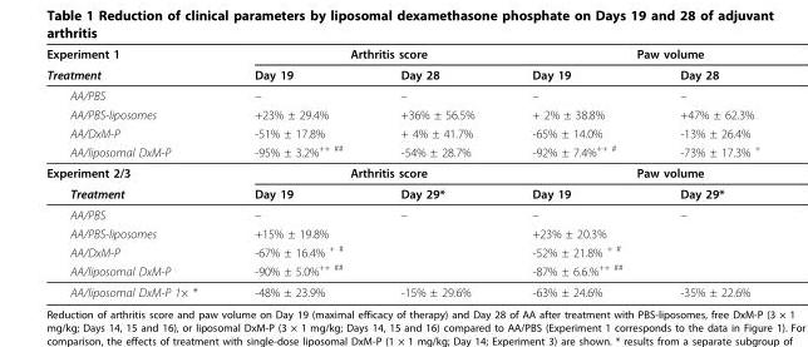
<table><thead><tr><td rowspan="2">Experiment 1 Treatment</td><td colspan="2">Arthritis score</td><td colspan="2">Paw volume</td></tr><tr><td>Day 19</td><td>Day 28</td><td>Day 19</td><td>Day 28</td></tr></thead><tbody><tr><td>AA/PBS</td><td>–</td><td>–</td><td>–</td><td>–</td></tr><tr><td>AA/PBS-liposomes</td><td>+23% ± 29.4%</td><td>+36% ± 56.5%</td><td>+ 2% ± 38.8%</td><td>+47% ± 62.3%</td></tr><tr><td>AA/DxM-P</td><td>-51% ± 17.8%</td><td>+ 4% ± 41.7%</td><td>-65% ± 14.0%</td><td>-13% ± 26.4%</td></tr><tr><td>AA/liposomal DxM-P</td><td>-95% ± 3.2%++ ##</td><td>-54% ± 28.7%</td><td>-92% ± 7.4%++ #</td><td>-73% ± 17.3% +</td></tr><tr><td>Experiment 2/3</td><td colspan="2">Arthritis score</td><td colspan="2">Paw volume</td></tr><tr><td>Treatment</td><td>Day 19</td><td>Day 29*</td><td>Day 19</td><td>Day 29*</td></tr><tr><td>AA/PBS</td><td>–</td><td>–</td><td>–</td><td>–</td></tr><tr><td>AA/PBS-liposomes</td><td>+15% ± 19.8%</td><td></td><td>+23% ± 20.3%</td><td></td></tr><tr><td>AA/DxM-P</td><td>-67% ± 16.4% + #</td><td></td><td>-52% ± 21.8% + #</td><td></td></tr><tr><td>AA/liposomal DxM-P</td><td>-90% ± 5.0%++ ##</td><td></td><td>-87% ± 6.6.%++ ##</td><td></td></tr><tr><td>AA/liposomal DxM-P 1× *</td><td>-48% ± 23.9%</td><td>-15% ± 29.6%</td><td>-63% ± 24.6%</td><td>-35% ± 22.6%</td></tr></tbody></table>